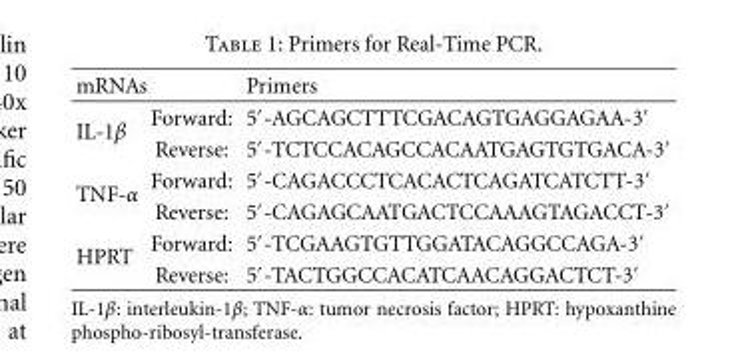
<table><thead><tr><td>mRNAs</td><td></td><td>Primers</td></tr></thead><tbody><tr><td rowspan="2">IL-1β</td><td>Forward:</td><td>5′-AGCAGCTTTCGACAGTGAGGAGAA-3′</td></tr><tr><td>Reverse:</td><td>5′-TCTCCACAGCCACAATGAGTGTGACA-3′</td></tr><tr><td rowspan="2">TNF-α</td><td>Forward:</td><td>5′-CAGACCCTCACACTCAGATCATCTT-3′</td></tr><tr><td>Reverse:</td><td>5′-CAGAGCAATGACTCCAAAGTAGACCT-3′</td></tr><tr><td rowspan="2">HPRT</td><td>Forward:</td><td>5′-TCGAAGTGTTGGATACAGGCCAGA-3′</td></tr><tr><td>Reverse:</td><td>5′-TACTGGCCACATCAACAGGACTCT-3′</td></tr></tbody></table>